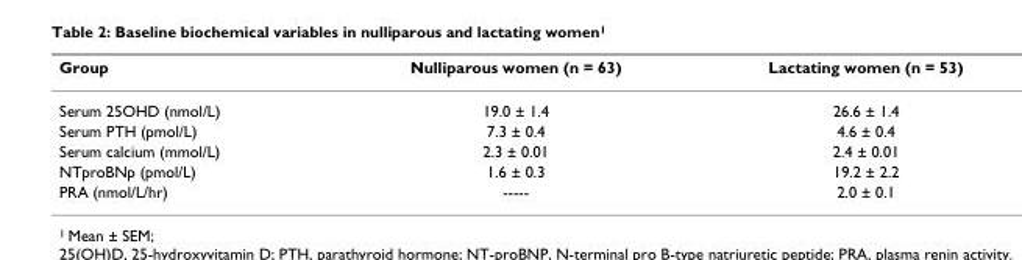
<table><thead><tr><td>Group</td><td>Nulliparous women (n = 63)</td><td>Lactating women (n = 53)</td></tr></thead><tbody><tr><td>Serum 25OHD (nmol/L)</td><td>19.0 ± 1.4</td><td>26.6 ± 1.4</td></tr><tr><td>Serum PTH (pmol/L)</td><td>7.3 ± 0.4</td><td>4.6 ± 0.4</td></tr><tr><td>Serum calcium (mmol/L)</td><td>2.3 ± 0.01</td><td>2.4 ± 0.01</td></tr><tr><td>NTproBNp (pmol/L)</td><td>1.6 ± 0.3</td><td>19.2 ± 2.2</td></tr><tr><td>PRA (nmol/L/hr)</td><td>-----</td><td>2.0 ± 0.1</td></tr></tbody></table>